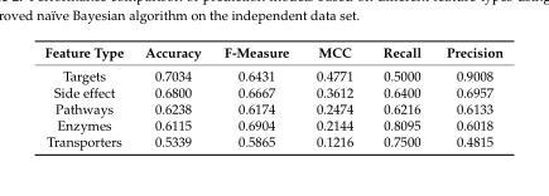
<table><thead><tr><td>Feature Type</td><td>Accuracy</td><td>F-Measure</td><td>MCC</td><td>Recall</td><td>Precision</td></tr></thead><tbody><tr><td>Targets</td><td>0.7034</td><td>0.6431</td><td>0.4771</td><td>0.5000</td><td>0.9008</td></tr><tr><td>Side effect</td><td>0.6800</td><td>0.6667</td><td>0.3612</td><td>0.6400</td><td>0.6957</td></tr><tr><td>Pathways</td><td>0.6238</td><td>0.6174</td><td>0.2474</td><td>0.6216</td><td>0.6133</td></tr><tr><td>Enzymes</td><td>0.6115</td><td>0.6904</td><td>0.2144</td><td>0.8095</td><td>0.6018</td></tr><tr><td>Transporters</td><td>0.5339</td><td>0.5865</td><td>0.1216</td><td>0.7500</td><td>0.4815</td></tr></tbody></table>